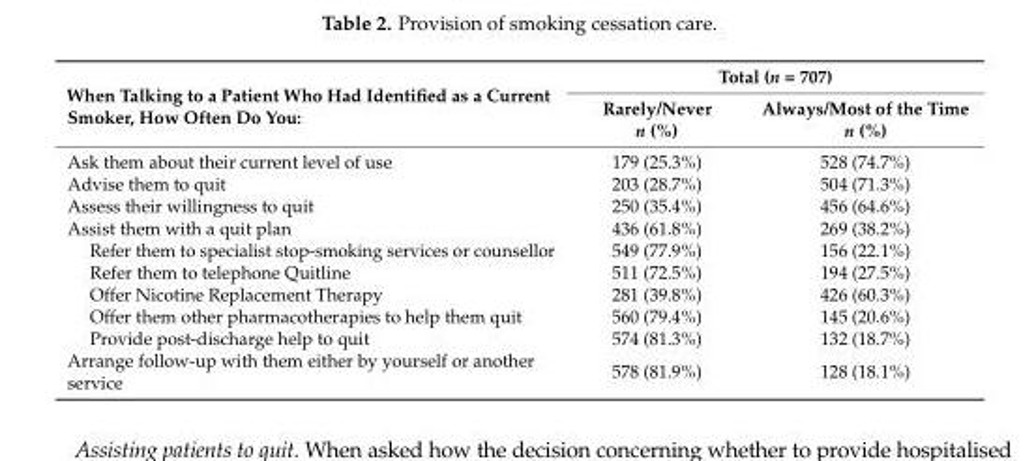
<table><thead><tr><td rowspan="2">When Talking to a Patient Who Had Identified as a Current Smoker, How Often Do You:</td><td colspan="2">Total (n = 707)</td></tr><tr><td>Rarely/Never n (%)</td><td>Always/Most of the Time n (%)</td></tr></thead><tbody><tr><td>Ask them about their current level of use</td><td>179 (25.3%)</td><td>528 (74.7%)</td></tr><tr><td>Advise them to quit</td><td>203 (28.7%)</td><td>504 (71.3%)</td></tr><tr><td>Assess their willingness to quit</td><td>250 (35.4%)</td><td>456 (64.6%)</td></tr><tr><td>Assist them with a quit plan</td><td>436 (61.8%)</td><td>269 (38.2%)</td></tr><tr><td>Refer them to specialist stop-smoking services or counsellor</td><td>549 (77.9%)</td><td>156 (22.1%)</td></tr><tr><td>Refer them to telephone Quitline</td><td>511 (72.5%)</td><td>194 (27.5%)</td></tr><tr><td>Offer Nicotine Replacement Therapy</td><td>281 (39.8%)</td><td>426 (60.3%)</td></tr><tr><td>Offer them other pharmacotherapies to help them quit</td><td>560 (79.4%)</td><td>145 (20.6%)</td></tr><tr><td>Provide post-discharge help to quit</td><td>574 (81.3%)</td><td>132 (18.7%)</td></tr><tr><td>Arrange follow-up with them either by yourself or another service</td><td>578 (81.9%)</td><td>128 (18.1%)</td></tr></tbody></table>